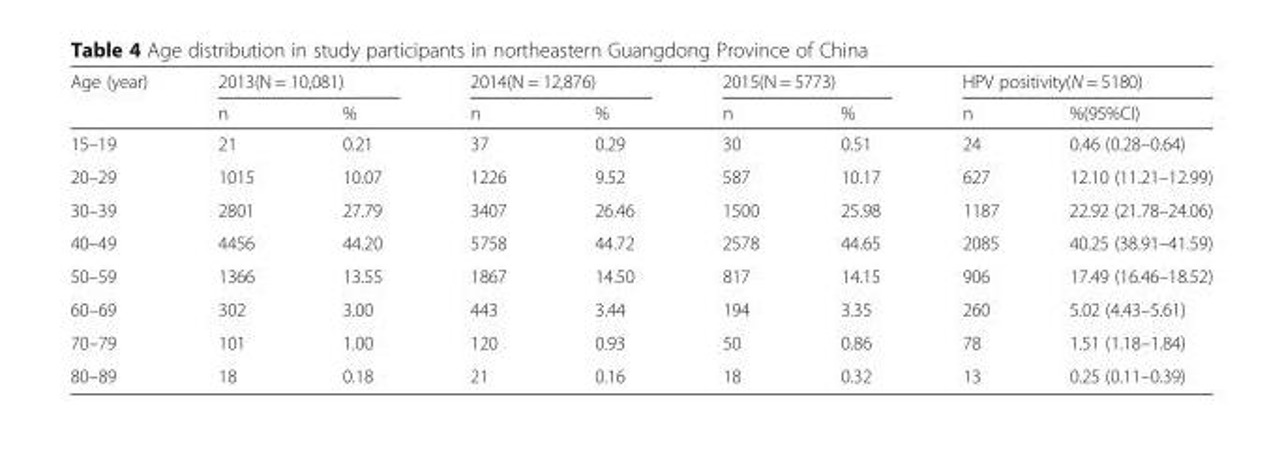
<table><thead><tr><td rowspan="2">Age (year)</td><td colspan="2">2013(N = 10,081)</td><td colspan="2">2014(N = 12,876)</td><td colspan="2">2015(N = 5773)</td><td colspan="2">HPV positivity(N = 5180)</td></tr><tr><td>n</td><td>%</td><td>n</td><td>%</td><td>n</td><td>%</td><td>n</td><td>%(95%CI)</td></tr></thead><tbody><tr><td>15–19</td><td>21</td><td>0.21</td><td>37</td><td>0.29</td><td>30</td><td>0.51</td><td>24</td><td>0.46 (0.28–0.64)</td></tr><tr><td>20–29</td><td>1015</td><td>10.07</td><td>1226</td><td>9.52</td><td>587</td><td>10.17</td><td>627</td><td>12.10 (11.21–12.99)</td></tr><tr><td>30–39</td><td>2801</td><td>27.79</td><td>3407</td><td>26.46</td><td>1500</td><td>25.98</td><td>1187</td><td>22.92 (21.78–24.06)</td></tr><tr><td>40–49</td><td>4456</td><td>44.20</td><td>5758</td><td>44.72</td><td>2578</td><td>44.65</td><td>2085</td><td>40.25 (38.91–41.59)</td></tr><tr><td>50–59</td><td>1366</td><td>13.55</td><td>1867</td><td>14.50</td><td>817</td><td>14.15</td><td>906</td><td>17.49 (16.46–18.52)</td></tr><tr><td>60–69</td><td>302</td><td>3.00</td><td>443</td><td>3.44</td><td>194</td><td>3.35</td><td>260</td><td>5.02 (4.43–5.61)</td></tr><tr><td>70–79</td><td>101</td><td>1.00</td><td>120</td><td>0.93</td><td>50</td><td>0.86</td><td>78</td><td>1.51 (1.18–1.84)</td></tr><tr><td>80–89</td><td>18</td><td>0.18</td><td>21</td><td>0.16</td><td>18</td><td>0.32</td><td>13</td><td>0.25 (0.11–0.39)</td></tr></tbody></table>